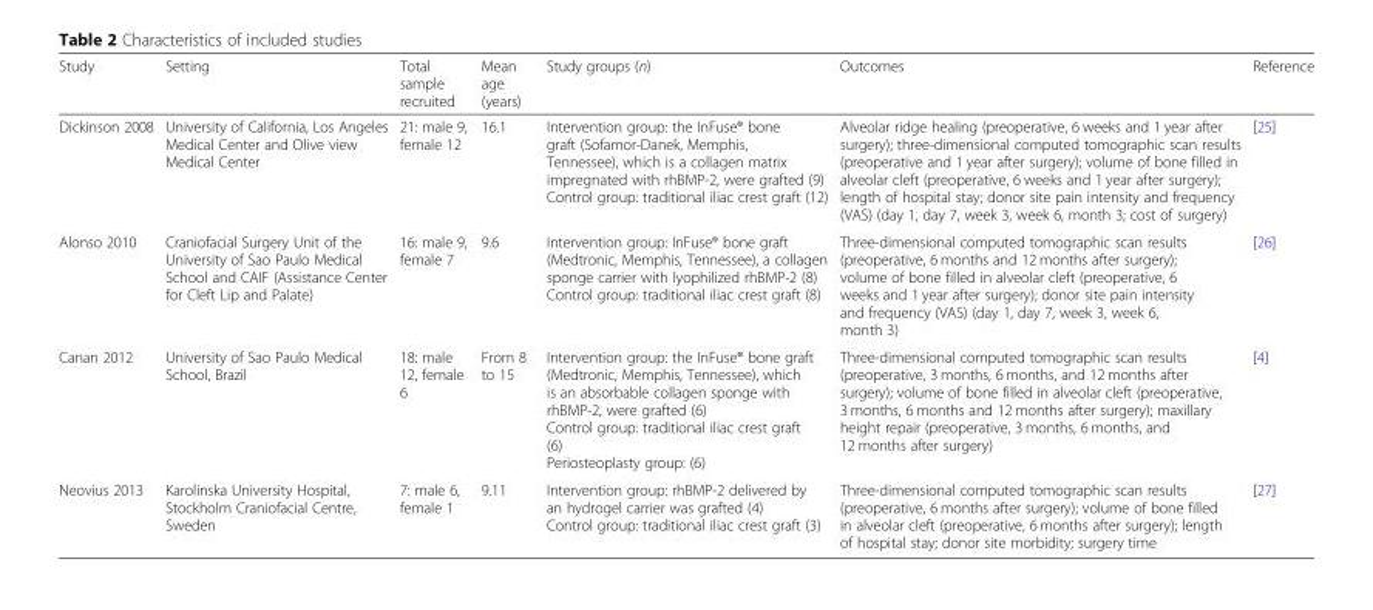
<table><thead><tr><td>Study</td><td>Setting</td><td>Total sample recruited</td><td>Mean age (years)</td><td>Study groups (n)</td><td>Outcomes</td><td>Reference</td></tr></thead><tbody><tr><td>Dickinson 2008</td><td>University of California, Los Angeles Medical Center and Olive view Medical Center</td><td>21: male 9, female 12</td><td>16.1</td><td>Intervention group: the InFuse® bone graft (Sofamor-Danek, Memphis, Tennessee), which is a collagen matrix impregnated with rhBMP-2, were grafted (9) Control group: traditional iliac crest graft (12)</td><td>Alveolar ridge healing (preoperative, 6 weeks and 1 year after surgery); three-dimensional computed tomographic scan results (preoperative and 1 year after surgery); volume of bone filled in alveolar cleft (preoperative, 6 weeks and 1 year after surgery); length of hospital stay; donor site pain intensity and frequency (VAS) (day 1, day 7, week 3, week 6, month 3; cost of surgery)</td><td>[25]</td></tr><tr><td>Alonso 2010</td><td>Craniofacial Surgery Unit of the University of Sao Paulo Medical School and CAIF (Assistance Center for Cleft Lip and Palate)</td><td>16: male 9, female 7</td><td>9.6</td><td>Intervention group: InFuse® bone graft (Medtronic, Memphis, Tennessee), a collagen sponge carrier with lyophilized rhBMP-2 (8) Control group: traditional iliac crest graft (8)</td><td>Three-dimensional computed tomographic scan results (preoperative, 6 months and 12 months after surgery); volume of bone filled in alveolar cleft (preoperative, 6 weeks and 1 year after surgery); donor site pain intensity and frequency (VAS) (day 1, day 7, week 3, week 6, month 3)</td><td>[26]</td></tr><tr><td>Canan 2012</td><td>University of Sao Paulo Medical School, Brazil</td><td>18: male 12, female 6</td><td>From 8 to 15</td><td>Intervention group: the InFuse® bone graft (Medtronic, Memphis, Tennessee), which is an absorbable collagen sponge with rhBMP-2, were grafted (6) Control group: traditional iliac crest graft (6) Periosteoplasty group: (6)</td><td>Three-dimensional computed tomographic scan results (preoperative, 3 months, 6 months, and 12 months after surgery); volume of bone filled in alveolar cleft (preoperative, 3 months, 6 months and 12 months after surgery); maxillary height repair (preoperative, 3 months, 6 months, and 12 months after surgery)</td><td>[4]</td></tr><tr><td>Neovius 2013</td><td>Karolinska University Hospital, Stockholm Craniofacial Centre, Sweden</td><td>7: male 6, female 1</td><td>9.11</td><td>Intervention group: rhBMP-2 delivered by an hydrogel carrier was grafted (4) Control group: traditional iliac crest graft (3)</td><td>Three-dimensional computed tomographic scan results (preoperative, 6 months after surgery); volume of bone filled in alveolar cleft (preoperative, 6 months after surgery); length of hospital stay; donor site morbidity; surgery time</td><td>[27]</td></tr></tbody></table>